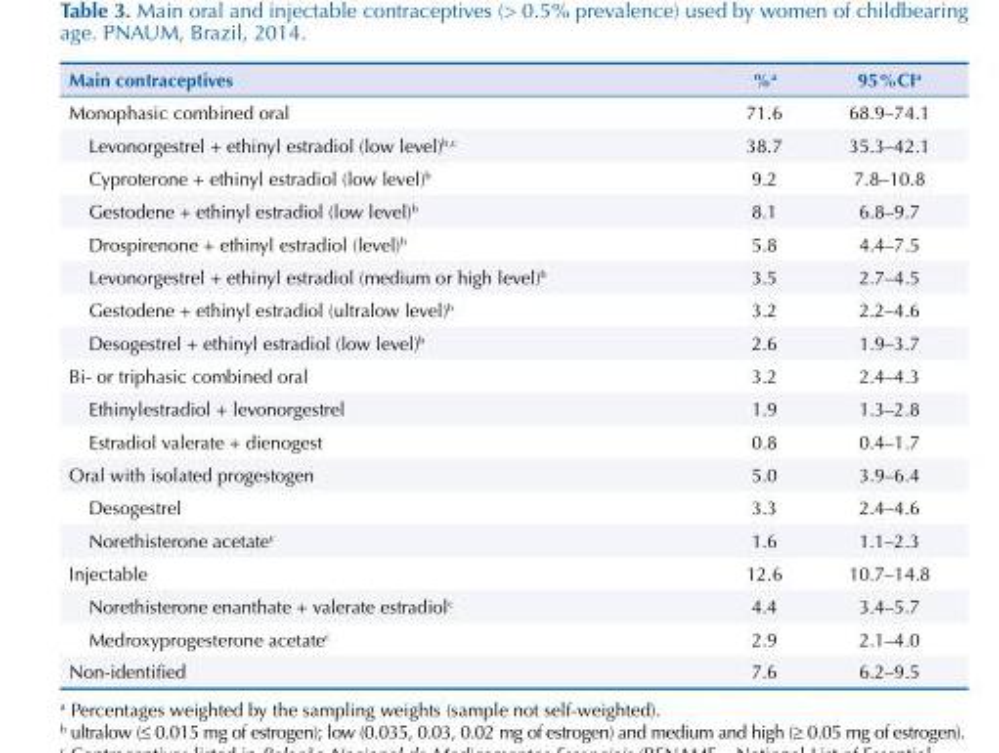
<table><thead><tr><td>Main contraceptives</td><td>%<sup>a</sup></td><td>95%CI<sup>a</sup></td></tr></thead><tbody><tr><td>Monophasic combined oral</td><td>71.6</td><td>68.9–74.1</td></tr><tr><td>Levonorgestrel + ethinyl estradiol (low level)<sup>b,c</sup></td><td>38.7</td><td>35.3–42.1</td></tr><tr><td>Cyproterone + ethinyl estradiol (low level)<sup>b</sup></td><td>9.2</td><td>7.8–10.8</td></tr><tr><td>Gestodene + ethinyl estradiol (low level)<sup>b</sup></td><td>8.1</td><td>6.8–9.7</td></tr><tr><td>Drospirenone + ethinyl estradiol (level)<sup>b</sup></td><td>5.8</td><td>4.4–7.5</td></tr><tr><td>Levonorgestrel + ethinyl estradiol (medium or high level)<sup>b</sup></td><td>3.5</td><td>2.7–4.5</td></tr><tr><td>Gestodene + ethinyl estradiol (ultralow level)<sup>b</sup></td><td>3.2</td><td>2.2–4.6</td></tr><tr><td>Desogestrel + ethinyl estradiol (low level)<sup>b</sup></td><td>2.6</td><td>1.9–3.7</td></tr><tr><td>Bi- or triphasic combined oral</td><td>3.2</td><td>2.4–4.3</td></tr><tr><td>Ethinylestradiol + levonorgestrel</td><td>1.9</td><td>1.3–2.8</td></tr><tr><td>Estradiol valerate + dienogest</td><td>0.8</td><td>0.4–1.7</td></tr><tr><td>Oral with isolated progestogen</td><td>5.0</td><td>3.9–6.4</td></tr><tr><td>Desogestrel</td><td>3.3</td><td>2.4–4.6</td></tr><tr><td>Norethisterone acetate<sup>c</sup></td><td>1.6</td><td>1.1–2.3</td></tr><tr><td>Injectable</td><td>12.6</td><td>10.7–14.8</td></tr><tr><td>Norethisterone enanthate + valerate estradiol<sup>c</sup></td><td>4.4</td><td>3.4–5.7</td></tr><tr><td>Medroxyprogesterone acetate<sup>c</sup></td><td>2.9</td><td>2.1–4.0</td></tr><tr><td>Non-identified</td><td>7.6</td><td>6.2–9.5</td></tr></tbody></table>